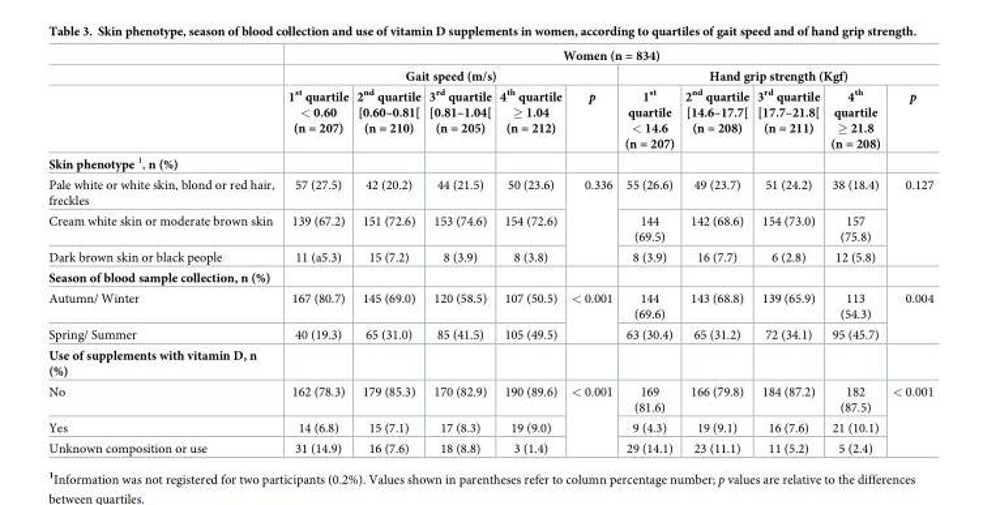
<table><thead><tr><td rowspan="3"></td><td colspan="10">Women (n = 834)</td></tr><tr><td colspan="5">Gait speed (m/s)</td><td colspan="5">Hand grip strength (Kgf)</td></tr><tr><td>1<sup>st</sup> quartile &lt; 0.60 (n = 207)</td><td>2<sup>nd</sup> quartile [0.60–0.81[ (n = 210)</td><td>3<sup>rd</sup> quartile [0.81–1.04[ (n = 205)</td><td>4<sup>th</sup> quartile ≥ 1.04 (n = 212)</td><td>p</td><td>1<sup>st</sup> quartile &lt; 14.6 (n = 207)</td><td>2<sup>nd</sup> quartile [14.6–17.7[ (n = 208)</td><td>3<sup>rd</sup> quartile [17.7–21.8[ (n = 211)</td><td>4<sup>th</sup> quartile ≥ 21.8 (n = 208)</td><td>p</td></tr></thead><tbody><tr><td colspan="11">Skin phenotype <sup>1</sup>, n (%)</td></tr><tr><td>Pale white or white skin, blond or red hair, freckles</td><td>57 (27.5)</td><td>42 (20.2)</td><td>44 (21.5)</td><td>50 (23.6)</td><td rowspan="3">0.336</td><td>55 (26.6)</td><td>49 (23.7)</td><td>51 (24.2)</td><td>38 (18.4)</td><td rowspan="3">0.127</td></tr><tr><td>Cream white skin or moderate brown skin</td><td>139 (67.2)</td><td>151 (72.6)</td><td>153 (74.6)</td><td>154 (72.6)</td><td>144 (69.5)</td><td>142 (68.6)</td><td>154 (73.0)</td><td>157 (75.8)</td></tr><tr><td>Dark brown skin or black people</td><td>11 (a5.3)</td><td>15 (7.2)</td><td>8 (3.9)</td><td>8 (3.8)</td><td>8 (3.9)</td><td>16 (7.7)</td><td>6 (2.8)</td><td>12 (5.8)</td></tr><tr><td colspan="11">Season of blood sample collection, n (%)</td></tr><tr><td>Autumn/ Winter</td><td>167 (80.7)</td><td>145 (69.0)</td><td>120 (58.5)</td><td>107 (50.5)</td><td rowspan="2">&lt; 0.001</td><td>144 (69.6)</td><td>143 (68.8)</td><td>139 (65.9)</td><td>113 (54.3)</td><td rowspan="2">0.004</td></tr><tr><td>Spring/ Summer</td><td>40 (19.3)</td><td>65 (31.0)</td><td>85 (41.5)</td><td>105 (49.5)</td><td>63 (30.4)</td><td>65 (31.2)</td><td>72 (34.1)</td><td>95 (45.7)</td></tr><tr><td colspan="11">Use of supplements with vitamin D, n (%)</td></tr><tr><td>No</td><td>162 (78.3)</td><td>179 (85.3)</td><td>170 (82.9)</td><td>190 (89.6)</td><td rowspan="3">&lt; 0.001</td><td>169 (81.6)</td><td>166 (79.8)</td><td>184 (87.2)</td><td>182 (87.5)</td><td rowspan="3">&lt; 0.001</td></tr><tr><td>Yes</td><td>14 (6.8)</td><td>15 (7.1)</td><td>17 (8.3)</td><td>19 (9.0)</td><td>9 (4.3)</td><td>19 (9.1)</td><td>16 (7.6)</td><td>21 (10.1)</td></tr><tr><td>Unknown composition or use</td><td>31 (14.9)</td><td>16 (7.6)</td><td>18 (8.8)</td><td>3 (1.4)</td><td>29 (14.1)</td><td>23 (11.1)</td><td>11 (5.2)</td><td>5 (2.4)</td></tr></tbody></table>